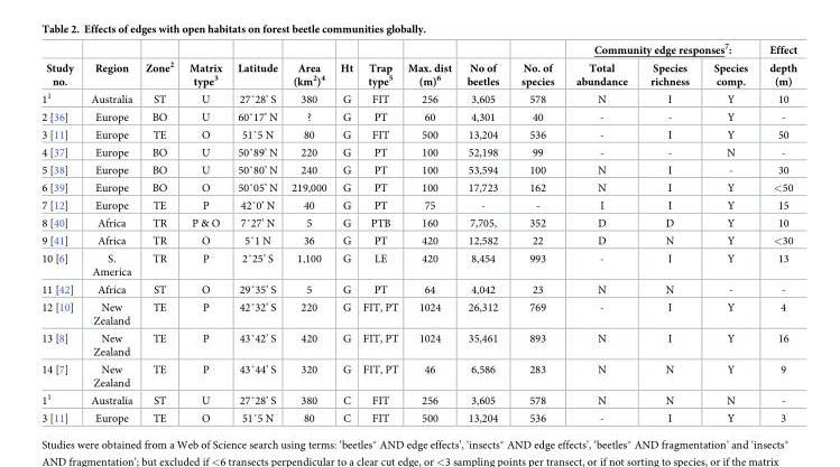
<table><thead><tr><td rowspan="2">Study no.</td><td rowspan="2">Region</td><td rowspan="2">Zone<sup>2</sup></td><td rowspan="2">Matrix type<sup>3</sup></td><td rowspan="2">Latitude</td><td rowspan="2">Area (km<sup>2</sup>)<sup>4</sup></td><td rowspan="2">Ht</td><td rowspan="2">Trap type<sup>5</sup></td><td rowspan="2">Max. dist (m)<sup>6</sup></td><td rowspan="2">No of beetles</td><td rowspan="2">No. of species</td><td colspan="3">Community edge responses<sup>7</sup>:</td><td rowspan="2">Effect depth (m)</td></tr><tr><td>Total abundance</td><td>Species richness</td><td>Species comp.</td></tr></thead><tbody><tr><td>1<sup>1</sup></td><td>Australia</td><td>ST</td><td>U</td><td>27˚28’ S</td><td>380</td><td>G</td><td>FIT</td><td>256</td><td>3,605</td><td>578</td><td>N</td><td>I</td><td>Y</td><td>10</td></tr><tr><td>2 [36]</td><td>Europe</td><td>BO</td><td>U</td><td>60˚17’ N</td><td>?</td><td>G</td><td>PT</td><td>60</td><td>4,301</td><td>40</td><td>-</td><td>-</td><td>Y</td><td>-</td></tr><tr><td>3 [11]</td><td>Europe</td><td>TE</td><td>O</td><td>51˚5 N</td><td>80</td><td>G</td><td>FIT</td><td>500</td><td>13,204</td><td>536</td><td>-</td><td>I</td><td>Y</td><td>50</td></tr><tr><td>4 [37]</td><td>Europe</td><td>BO</td><td>U</td><td>50˚89’ N</td><td>220</td><td>G</td><td>PT</td><td>100</td><td>52,198</td><td>99</td><td>-</td><td>-</td><td>N</td><td>-</td></tr><tr><td>5 [38]</td><td>Europe</td><td>BO</td><td>U</td><td>50˚80’ N</td><td>240</td><td>G</td><td>PT</td><td>100</td><td>53,594</td><td>100</td><td>N</td><td>I</td><td>-</td><td>30</td></tr><tr><td>6 [39]</td><td>Europe</td><td>BO</td><td>O</td><td>50˚05’ N</td><td>219,000</td><td>G</td><td>PT</td><td>100</td><td>17,723</td><td>162</td><td>N</td><td>I</td><td>Y</td><td>&lt;50</td></tr><tr><td>7 [12]</td><td>Europe</td><td>TE</td><td>P</td><td>42˚0’ N</td><td>40</td><td>G</td><td>PT</td><td>75</td><td>-</td><td>-</td><td>I</td><td>I</td><td>Y</td><td>15</td></tr><tr><td>8 [40]</td><td>Africa</td><td>TR</td><td>P &amp; O</td><td>7˚27’ N</td><td>5</td><td>G</td><td>PTB</td><td>160</td><td>7,705,</td><td>352</td><td>D</td><td>D</td><td>Y</td><td>10</td></tr><tr><td>9 [41]</td><td>Africa</td><td>TR</td><td>O</td><td>5˚1 N</td><td>36</td><td>G</td><td>PT</td><td>420</td><td>12,582</td><td>22</td><td>D</td><td>N</td><td>Y</td><td>&lt;30</td></tr><tr><td>10 [6]</td><td>S. America</td><td>TR</td><td>P</td><td>2˚25’ S</td><td>1,100</td><td>G</td><td>LE</td><td>420</td><td>8,454</td><td>993</td><td>-</td><td>I</td><td>Y</td><td>13</td></tr><tr><td>11 [42]</td><td>Africa</td><td>ST</td><td>O</td><td>29˚35’ S</td><td>5</td><td>G</td><td>PT</td><td>64</td><td>4,042</td><td>23</td><td>N</td><td>N</td><td>-</td><td>-</td></tr><tr><td>12 [10]</td><td>New Zealand</td><td>TE</td><td>P</td><td>42˚32’ S</td><td>220</td><td>G</td><td>FIT, PT</td><td>1024</td><td>26,312</td><td>769</td><td>-</td><td>I</td><td>Y</td><td>4</td></tr><tr><td>13 [8]</td><td>New Zealand</td><td>TE</td><td>P</td><td>43˚42’ S</td><td>420</td><td>G</td><td>FIT, PT</td><td>1024</td><td>35,461</td><td>893</td><td>N</td><td>I</td><td>Y</td><td>16</td></tr><tr><td>14 [7]</td><td>New Zealand</td><td>TE</td><td>P</td><td>43˚44’ S</td><td>320</td><td>G</td><td>FIT, PT</td><td>46</td><td>6,586</td><td>283</td><td>N</td><td>N</td><td>Y</td><td>9</td></tr><tr><td>1<sup>1</sup></td><td>Australia</td><td>ST</td><td>U</td><td>27˚28’ S</td><td>380</td><td>C</td><td>FIT</td><td>256</td><td>3,605</td><td>578</td><td>N</td><td>N</td><td>N</td><td>-</td></tr><tr><td>3 [11]</td><td>Europe</td><td>TE</td><td>O</td><td>51˚5 N</td><td>80</td><td>C</td><td>FIT</td><td>500</td><td>13,204</td><td>536</td><td>-</td><td>I</td><td>Y</td><td>3</td></tr></tbody></table>